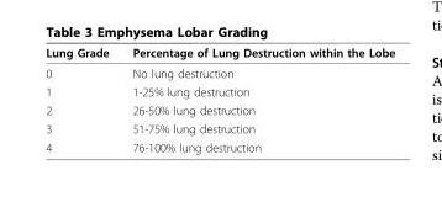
<table><thead><tr><td>Lung Grade</td><td>Percentage of Lung Destruction within the Lobe</td></tr></thead><tbody><tr><td>0</td><td>No lung destruction</td></tr><tr><td>1</td><td>1-25% lung destruction</td></tr><tr><td>2</td><td>26-50% lung destruction</td></tr><tr><td>3</td><td>51-75% lung destruction</td></tr><tr><td>4</td><td>76-100% lung destruction</td></tr></tbody></table>